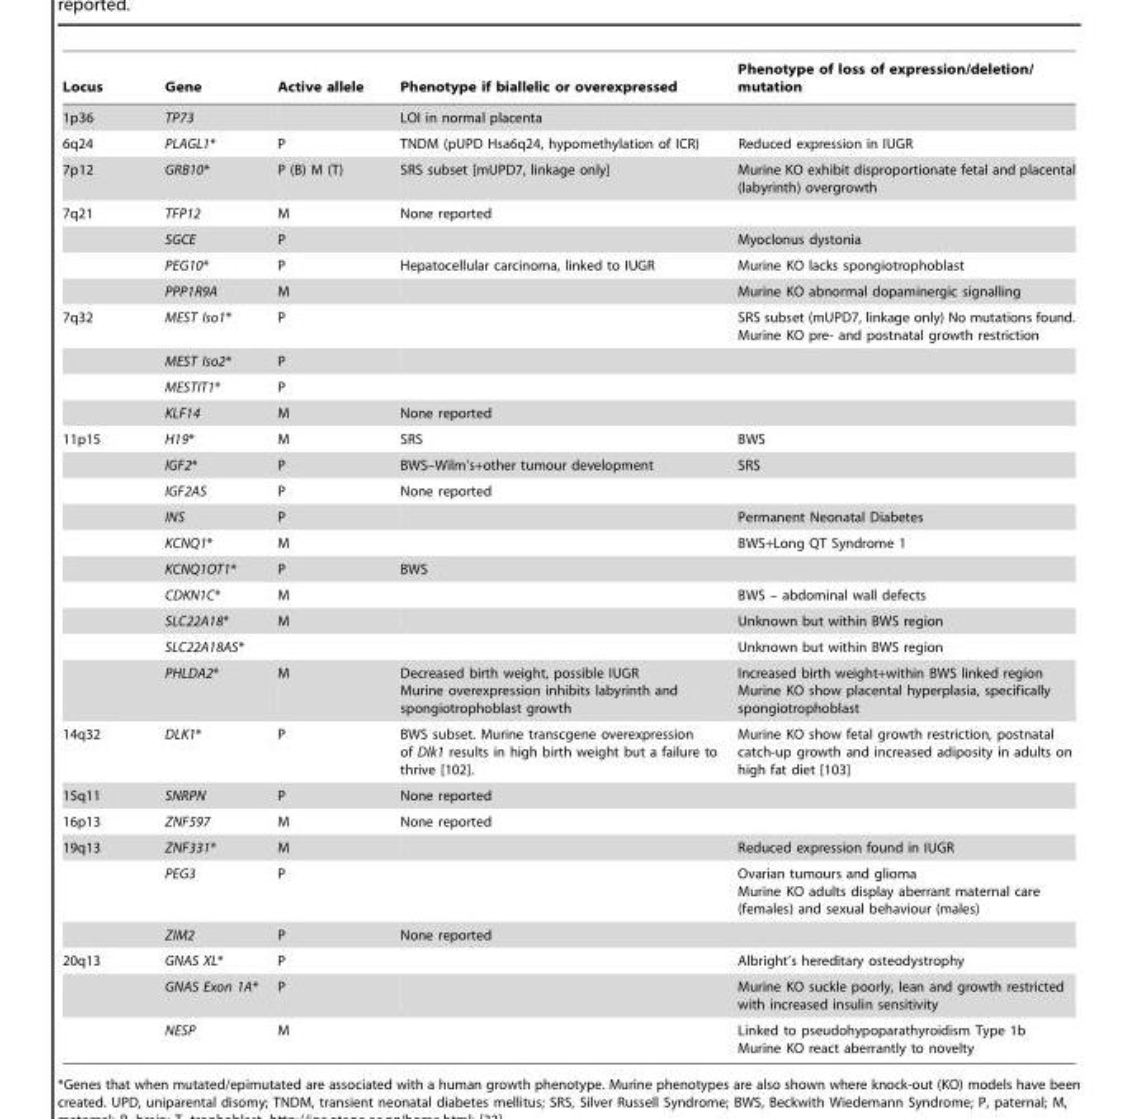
<table><thead><tr><td>Locus</td><td>Gene</td><td>Active allele</td><td>Phenotype if biallelic or overexpressed</td><td>Phenotype of loss of expression/deletion/ mutation</td></tr></thead><tbody><tr><td>1p36</td><td>TP73</td><td></td><td>LOI in normal placenta</td><td></td></tr><tr><td>6q24</td><td>PLAGL1*</td><td>P</td><td>TNDM (pUPD Hsa6q24, hypomethylation of ICR)</td><td>Reduced expression in IUGR</td></tr><tr><td>7p12</td><td>GRB10*</td><td>P (B) M (T)</td><td>SRS subset [mUPD7, linkage only]</td><td>Murine KO exhibit disproportionate fetal and placental (labyrinth) overgrowth</td></tr><tr><td rowspan="4">7q21</td><td>TFP12</td><td>M</td><td colspan="2">None reported</td></tr><tr><td>SGCE</td><td>P</td><td></td><td>Myoclonus dystonia</td></tr><tr><td>PEG10*</td><td>P</td><td>Hepatocellular carcinoma, linked to IUGR</td><td>Murine KO lacks spongiotrophoblast</td></tr><tr><td>PPP1R9A</td><td>M</td><td></td><td>Murine KO abnormal dopaminergic signalling</td></tr><tr><td rowspan="4">7q32</td><td>MEST Iso1*</td><td>P</td><td></td><td>SRS subset (mUPD7, linkage only) No mutations found. Murine KO pre- and postnatal growth restriction</td></tr><tr><td>MEST Iso2*</td><td>P</td><td></td><td></td></tr><tr><td>MESTIT1*</td><td>P</td><td></td><td></td></tr><tr><td>KLF14</td><td>M</td><td colspan="2">None reported</td></tr><tr><td rowspan="10">11p15</td><td>H19*</td><td>M</td><td>SRS</td><td>BWS</td></tr><tr><td>IGF2*</td><td>P</td><td>BWS–Wilm’s+other tumour development</td><td>SRS</td></tr><tr><td>IGF2AS</td><td>P</td><td colspan="2">None reported</td></tr><tr><td>INS</td><td>P</td><td></td><td>Permanent Neonatal Diabetes</td></tr><tr><td>KCNQ1*</td><td>M</td><td></td><td>BWS+Long QT Syndrome 1</td></tr><tr><td>KCNQ1OT1*</td><td>P</td><td>BWS</td><td></td></tr><tr><td>CDKN1C*</td><td>M</td><td></td><td>BWS – abdominal wall defects</td></tr><tr><td>SLC22A18*</td><td>M</td><td></td><td>Unknown but within BWS region</td></tr><tr><td>SLC22A18AS*</td><td></td><td></td><td>Unknown but within BWS region</td></tr><tr><td>PHLDA2*</td><td>M</td><td>Decreased birth weight, possible IUGR Murine overexpression inhibits labyrinth and spongiotrophoblast growth</td><td>Increased birth weight+within BWS linked region Murine KO show placental hyperplasia, specifically spongiotrophoblast</td></tr><tr><td>14q32</td><td>DLK1*</td><td>P</td><td>BWS subset. Murine transcgene overexpression of Dlk1 results in high birth weight but a failure to thrive [102].</td><td>Murine KO show fetal growth restriction, postnatal catch-up growth and increased adiposity in adults on high fat diet [103]</td></tr><tr><td>15q11</td><td>SNRPN</td><td>P</td><td colspan="2">None reported</td></tr><tr><td>16p13</td><td>ZNF597</td><td>M</td><td colspan="2">None reported</td></tr><tr><td rowspan="3">19q13</td><td>ZNF331*</td><td>M</td><td></td><td>Reduced expression found in IUGR</td></tr><tr><td>PEG3</td><td>P</td><td></td><td>Ovarian tumours and glioma Murine KO adults display aberrant maternal care (females) and sexual behaviour (males)</td></tr><tr><td>ZIM2</td><td>P</td><td colspan="2">None reported</td></tr><tr><td rowspan="3">20q13</td><td>GNAS XL*</td><td>P</td><td></td><td>Albright’s hereditary osteodystrophy</td></tr><tr><td>GNAS Exon 1A*</td><td>P</td><td></td><td>Murine KO suckle poorly, lean and growth restricted with increased insulin sensitivity</td></tr><tr><td>NESP</td><td>M</td><td></td><td>Linked to pseudohypoparathyroidism Type 1b Murine KO react aberrantly to novelty</td></tr></tbody></table>